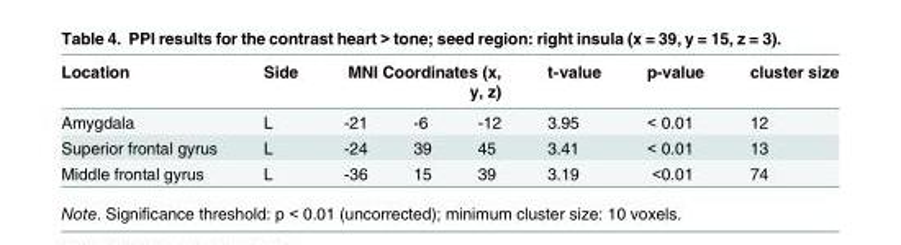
<table><thead><tr><td rowspan="2">Location Amygdala</td><td rowspan="2">Side L</td><td colspan="3">MNI Coordinates (x, y, z)</td><td rowspan="2">t-value 3.95</td><td rowspan="2">p-value &lt; 0.01</td><td rowspan="2">cluster size 12</td></tr><tr><td>-21</td><td>-6</td><td>-12</td></tr></thead><tbody><tr><td>Superior frontal gyrus</td><td>L</td><td>-24</td><td>39</td><td>45</td><td>3.41</td><td>&lt; 0.01</td><td>13</td></tr><tr><td>Middle frontal gyrus</td><td>L</td><td>-36</td><td>15</td><td>39</td><td>3.19</td><td>&lt;0.01</td><td>74</td></tr></tbody></table>